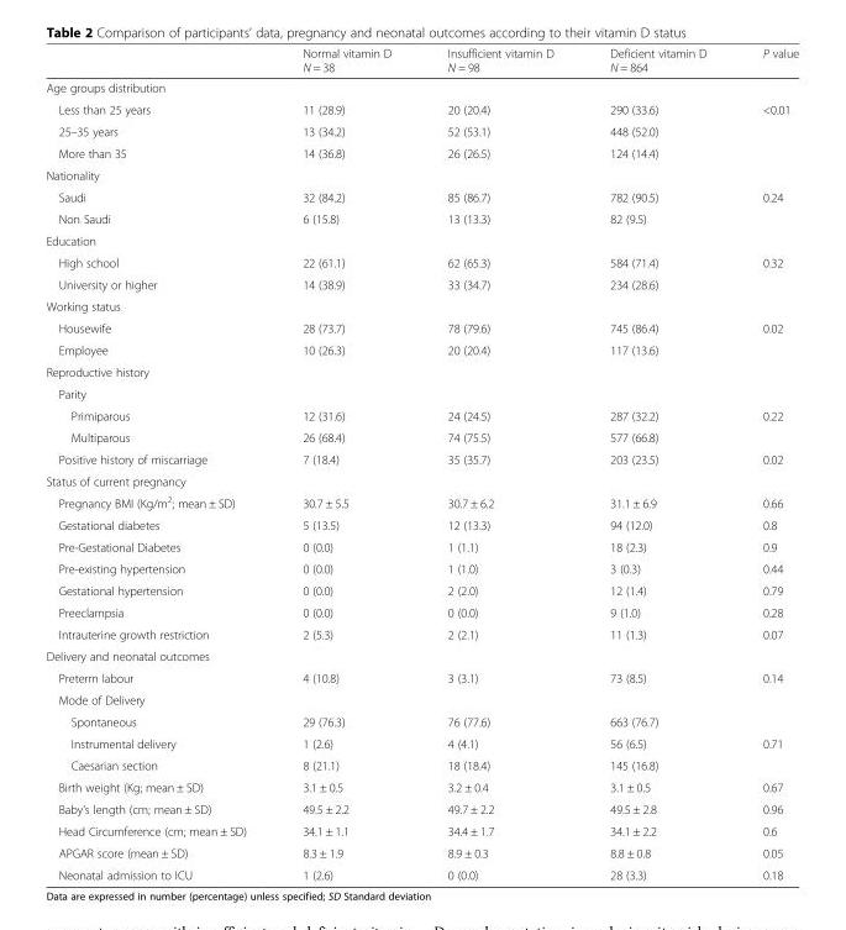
<table><thead><tr><td></td><td>Normal vitamin D N = 38</td><td>Insufficient vitamin D N = 98</td><td>Deficient vitamin D N = 864</td><td>P value</td></tr></thead><tbody><tr><td colspan="5">Age groups distribution</td></tr><tr><td>Less than 25 years</td><td>11 (28.9)</td><td>20 (20.4)</td><td>290 (33.6)</td><td rowspan="3">&lt;0.01</td></tr><tr><td>25–35 years</td><td>13 (34.2)</td><td>52 (53.1)</td><td>448 (52.0)</td></tr><tr><td>More than 35</td><td>14 (36.8)</td><td>26 (26.5)</td><td>124 (14.4)</td></tr><tr><td colspan="5">Nationality</td></tr><tr><td>Saudi</td><td>32 (84.2)</td><td>85 (86.7)</td><td>782 (90.5)</td><td rowspan="2">0.24</td></tr><tr><td>Non Saudi</td><td>6 (15.8)</td><td>13 (13.3)</td><td>82 (9.5)</td></tr><tr><td colspan="5">Education</td></tr><tr><td>High school</td><td>22 (61.1)</td><td>62 (65.3)</td><td>584 (71.4)</td><td rowspan="2">0.32</td></tr><tr><td>University or higher</td><td>14 (38.9)</td><td>33 (34.7)</td><td>234 (28.6)</td></tr><tr><td colspan="5">Working status</td></tr><tr><td>Housewife</td><td>28 (73.7)</td><td>78 (79.6)</td><td>745 (86.4)</td><td rowspan="2">0.02</td></tr><tr><td>Employee</td><td>10 (26.3)</td><td>20 (20.4)</td><td>117 (13.6)</td></tr><tr><td colspan="5">Reproductive history</td></tr><tr><td colspan="5">Parity</td></tr><tr><td>Primiparous</td><td>12 (31.6)</td><td>24 (24.5)</td><td>287 (32.2)</td><td rowspan="2">0.22</td></tr><tr><td>Multiparous</td><td>26 (68.4)</td><td>74 (75.5)</td><td>577 (66.8)</td></tr><tr><td>Positive history of miscarriage</td><td>7 (18.4)</td><td>35 (35.7)</td><td>203 (23.5)</td><td>0.02</td></tr><tr><td colspan="5">Status of current pregnancy</td></tr><tr><td>Pregnancy BMI (Kg/m<sup>2</sup>; mean ± SD)</td><td>30.7 ± 5.5</td><td>30.7 ± 6.2</td><td>31.1 ± 6.9</td><td>0.66</td></tr><tr><td>Gestational diabetes</td><td>5 (13.5)</td><td>12 (13.3)</td><td>94 (12.0)</td><td>0.8</td></tr><tr><td>Pre-Gestational Diabetes</td><td>0 (0.0)</td><td>1 (1.1)</td><td>18 (2.3)</td><td>0.9</td></tr><tr><td>Pre-existing hypertension</td><td>0 (0.0)</td><td>1 (1.0)</td><td>3 (0.3)</td><td>0.44</td></tr><tr><td>Gestational hypertension</td><td>0 (0.0)</td><td>2 (2.0)</td><td>12 (1.4)</td><td>0.79</td></tr><tr><td>Preeclampsia</td><td>0 (0.0)</td><td>0 (0.0)</td><td>9 (1.0)</td><td>0.28</td></tr><tr><td>Intrauterine growth restriction</td><td>2 (5.3)</td><td>2 (2.1)</td><td>11 (1.3)</td><td>0.07</td></tr><tr><td colspan="5">Delivery and neonatal outcomes</td></tr><tr><td>Preterm labour</td><td>4 (10.8)</td><td>3 (3.1)</td><td>73 (8.5)</td><td>0.14</td></tr><tr><td colspan="5">Mode of Delivery</td></tr><tr><td>Spontaneous</td><td>29 (76.3)</td><td>76 (77.6)</td><td>663 (76.7)</td><td></td></tr><tr><td>Instrumental delivery</td><td>1 (2.6)</td><td>4 (4.1)</td><td>56 (6.5)</td><td>0.71</td></tr><tr><td>Caesarian section</td><td>8 (21.1)</td><td>18 (18.4)</td><td>145 (16.8)</td><td></td></tr><tr><td>Birth weight (Kg; mean ± SD)</td><td>3.1 ± 0.5</td><td>3.2 ± 0.4</td><td>3.1 ± 0.5</td><td>0.67</td></tr><tr><td>Baby’s length (cm; mean ± SD)</td><td>49.5 ± 2.2</td><td>49.7 ± 2.2</td><td>49.5 ± 2.8</td><td>0.96</td></tr><tr><td>Head Circumference (cm; mean ± SD)</td><td>34.1 ± 1.1</td><td>34.4 ± 1.7</td><td>34.1 ± 2.2</td><td>0.6</td></tr><tr><td>APGAR score (mean ± SD)</td><td>8.3 ± 1.9</td><td>8.9 ± 0.3</td><td>8.8 ± 0.8</td><td>0.05</td></tr><tr><td>Neonatal admission to ICU</td><td>1 (2.6)</td><td>0 (0.0)</td><td>28 (3.3)</td><td>0.18</td></tr></tbody></table>